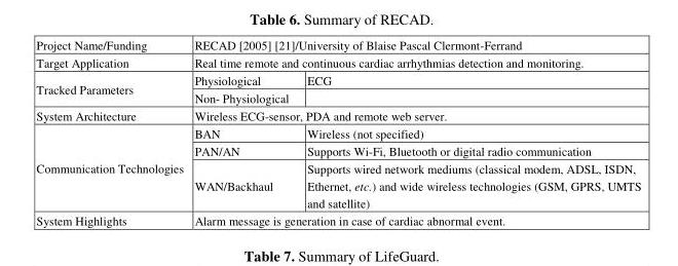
<table><tbody><tr><td>Project Name/Funding</td><td colspan="2">RECAD [2005] [21]/University of Blaise Pascal Clermont-Ferrand</td></tr><tr><td>Target Application</td><td colspan="2">Real time remote and continuous cardiac arrhythmias detection and monitoring.</td></tr><tr><td rowspan="2">Tracked Parameters</td><td>Physiological</td><td>ECG</td></tr><tr><td>Non- Physiological</td><td></td></tr><tr><td>System Architecture</td><td colspan="2">Wireless ECG-sensor, PDA and remote web server.</td></tr><tr><td rowspan="3">Communication Technologies</td><td>BAN</td><td>Wireless (not specified)</td></tr><tr><td>PAN/AN</td><td>Supports Wi-Fi, Bluetooth or digital radio communication</td></tr><tr><td>WAN/Backhaul</td><td>Supports wired network mediums (classical modem, ADSL, ISDN, Ethernet, etc.) and wide wireless technologies (GSM, GPRS, UMTS and satellite)</td></tr><tr><td>System Highlights</td><td colspan="2">Alarm message is generation in case of cardiac abnormal event.</td></tr></tbody></table>